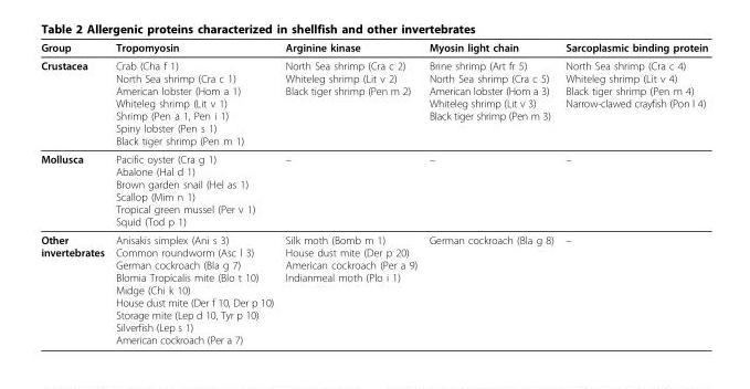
<table><thead><tr><td>Group</td><td>Tropomyosin</td><td>Arginine kinase</td><td>Myosin light chain</td><td>Sarcoplasmic binding protein</td></tr></thead><tbody><tr><td>Crustacea</td><td>Crab (Cha f 1) North Sea shrimp (Cra c 1) American lobster (Hom a 1) Whiteleg shrimp (Lit v 1) Shrimp (Pen a 1, Pen i 1) Spiny lobster (Pen s 1) Black tiger shrimp (Pen m 1)</td><td>North Sea shrimp (Cra c 2) Whiteleg shrimp (Lit v 2) Black tiger shrimp (Pen m 2)</td><td>Brine shrimp (Art fr 5) North Sea shrimp (Cra c 5) American lobster (Hom a 3) Whiteleg shrimp (Lit v 3) Black tiger shrimp (Pen m 3)</td><td>North Sea shrimp (Cra c 4) Whiteleg shrimp (Lit v 4) Black tiger shrimp (Pen m 4) Narrow-clawed crayfish (Pon l 4)</td></tr><tr><td>Mollusca</td><td>Pacific oyster (Cra g 1) Abalone (Hal d 1) Brown garden snail (Hel as 1) Scallop (Mim n 1) Tropical green mussel (Per v 1) Squid (Tod p 1)</td><td>–</td><td>–</td><td>–</td></tr><tr><td>Other invertebrates</td><td>Anisakis simplex (Ani s 3) Common roundworm (Asc l 3) German cockroach (Bla g 7) Blomia Tropicalis mite (Blo t 10) Midge (Chi k 10) House dust mite (Der f 10, Der p 10) Storage mite (Lep d 10, Tyr p 10) Silverfish (Lep s 1) American cockroach (Per a 7)</td><td>Silk moth (Bomb m 1) House dust mite (Der p 20) American cockroach (Per a 9) Indianmeal moth (Plo i 1)</td><td>German cockroach (Bla g 8)</td><td>–</td></tr></tbody></table>